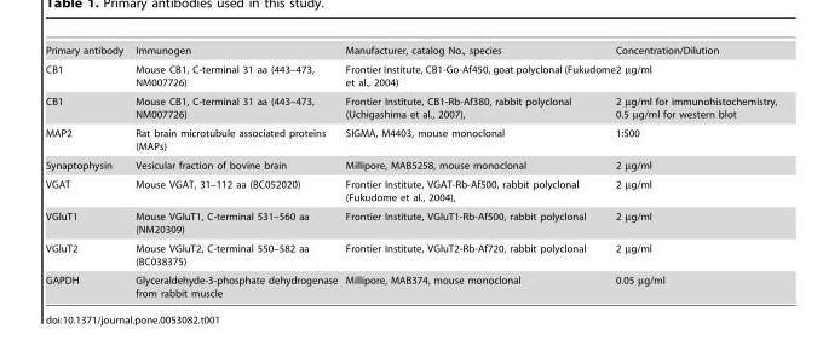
<table><tbody><tr><td>Primary antibody</td><td>Immunogen</td><td>Manufacturer, catalog No., species</td><td>Concentration/Dilution</td></tr><tr><td>CB1</td><td>Mouse CB1, C-terminal 31 aa (443–473, NM007726)</td><td>Frontier Institute, CB1-Go-Af450, goat polyclonal (Fukudome et al., 2004)</td><td>2 µg/ml</td></tr><tr><td>CB1</td><td>Mouse CB1, C-terminal 31 aa (443–473, NM007726)</td><td>Frontier Institute, CB1-Rb-Af380, rabbit polyclonal (Uchigashima et al., 2007),</td><td>2 µg/ml for immunohistochemistry, 0.5 µg/ml for western blot</td></tr><tr><td>MAP2</td><td>Rat brain microtubule associated proteins (MAPs)</td><td>SIGMA, M4403, mouse monoclonal</td><td>1:500</td></tr><tr><td>Synaptophysin</td><td>Vesicular fraction of bovine brain</td><td>Millipore, MAB5258, mouse monoclonal</td><td>2 µg/ml</td></tr><tr><td>VGAT</td><td>Mouse VGAT, 31–112 aa (BC052020)</td><td>Frontier Institute, VGAT-Rb-Af500, rabbit polyclonal (Fukudome et al., 2004),</td><td>2 µg/ml</td></tr><tr><td>VGluT1</td><td>Mouse VGluT1, C-terminal 531–560 aa (NM20309)</td><td>Frontier Institute, VGluT1-Rb-Af500, rabbit polyclonal</td><td>2 µg/ml</td></tr><tr><td>VGluT2</td><td>Mouse VGluT2, C-terminal 550–582 aa (BC038375)</td><td>Frontier Institute, VGluT2-Rb-Af720, rabbit polyclonal</td><td>2 µg/ml</td></tr><tr><td>GAPDH</td><td>Glyceraldehyde-3-phosphate dehydrogenase from rabbit muscle</td><td>Millipore, MAB374, mouse monoclonal</td><td>0.05 µg/ml</td></tr></tbody></table>